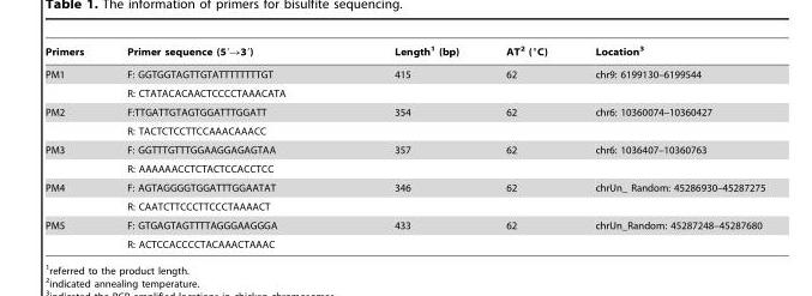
<table><thead><tr><td>Primers</td><td>Primer sequence (5′→3′)</td><td>Length<sup>1</sup> (bp)</td><td>AT<sup>2</sup> (°C)</td><td>Location<sup>3</sup></td></tr></thead><tbody><tr><td rowspan="2">PM1</td><td>F: GGTGGTAGTTGTATTTTTTTTGT</td><td>415</td><td>62</td><td>chr9: 6199130–6199544</td></tr><tr><td>R: CTATACACAACTCCCCTAAACATA</td><td></td><td></td><td></td></tr><tr><td rowspan="2">PM2</td><td>F:TTGATTGTAGTGGATTTGGATT</td><td>354</td><td>62</td><td>chr6: 10360074–10360427</td></tr><tr><td>R: TACTCTCCTTCCAAACAAACC</td><td></td><td></td><td></td></tr><tr><td rowspan="2">PM3</td><td>F: GGTTTGTTTGGAAGGAGAGTAA</td><td>357</td><td>62</td><td>chr6: 1036407–10360763</td></tr><tr><td>R: AAAAAACCTCTACTCCACCTCC</td><td></td><td></td><td></td></tr><tr><td rowspan="2">PM4</td><td>F: AGTAGGGGTGGATTTGGAATAT</td><td>346</td><td>62</td><td>chrUn_ Random: 45286930–45287275</td></tr><tr><td>R: CAATCTTCCCTTCCCTAAAACT</td><td></td><td></td><td></td></tr><tr><td rowspan="2">PM5</td><td>F: GTGAGTAGTTTTAGGGAAGGGA</td><td>433</td><td>62</td><td>chrUn_Random: 45287248–45287680</td></tr><tr><td>R: ACTCCACCCCTACAAACTAAAC</td><td></td><td></td><td></td></tr></tbody></table>